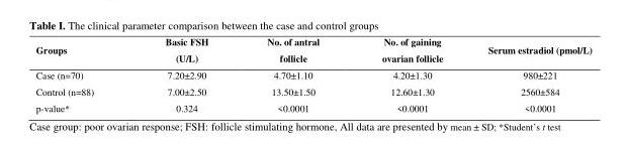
<table><thead><tr><td>Groups</td><td>Basic FSH (U/L)</td><td>No. of antral follicle</td><td>No. of gaining ovarian follicle</td><td>Serum estradiol (pmol/L)</td></tr></thead><tbody><tr><td>Case (n=70)</td><td>7.20±2.90</td><td>4.70±1.10</td><td>4.20±1.30</td><td>980±221</td></tr><tr><td>Control (n=88)</td><td>7.00±2.50</td><td>13.50±1.50</td><td>12.60±1.30</td><td>2560±584</td></tr><tr><td>p-value*</td><td>0.324</td><td>&lt;0.0001</td><td>&lt;0.0001</td><td>&lt;0.0001</td></tr></tbody></table>